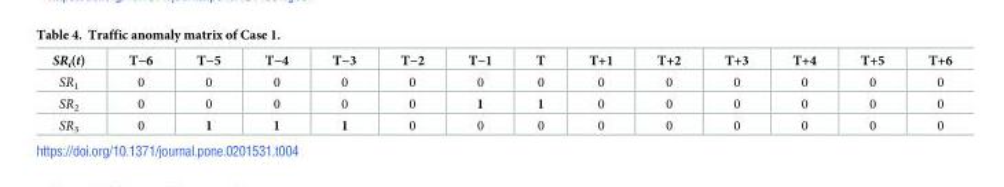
<table><thead><tr><td>SR<sub>i</sub>(t)</td><td>T−6</td><td>T−5</td><td>T−4</td><td>T−3</td><td>T−2</td><td>T−1</td><td>T</td><td>T+1</td><td>T+2</td><td>T+3</td><td>T+4</td><td>T+5</td><td>T+6</td></tr></thead><tbody><tr><td>SR<sub>1</sub></td><td>0</td><td>0</td><td>0</td><td>0</td><td>0</td><td>0</td><td>0</td><td>0</td><td>0</td><td>0</td><td>0</td><td>0</td><td>0</td></tr><tr><td>SR<sub>2</sub></td><td>0</td><td>0</td><td>0</td><td>0</td><td>0</td><td>1</td><td>1</td><td>0</td><td>0</td><td>0</td><td>0</td><td>0</td><td>0</td></tr><tr><td>SR<sub>3</sub></td><td>0</td><td>1</td><td>1</td><td>1</td><td>0</td><td>0</td><td>0</td><td>0</td><td>0</td><td>0</td><td>0</td><td>0</td><td>0</td></tr></tbody></table>